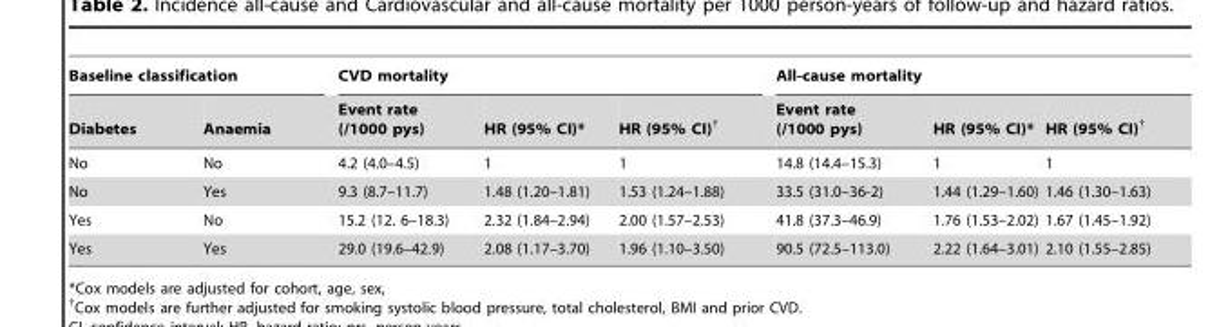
<table><thead><tr><td colspan="2">Baseline classification</td><td colspan="3">CVD mortality</td><td colspan="3">All-cause mortality</td></tr><tr><td>Diabetes</td><td>Anaemia</td><td>Event rate (/1000 pys)</td><td>HR (95% CI)*</td><td>HR (95% CI)†</td><td>Event rate (/1000 pys)</td><td>HR (95% CI)*</td><td>HR (95% CI)†</td></tr></thead><tbody><tr><td>No</td><td>No</td><td>4.2 (4.0–4.5)</td><td>1</td><td>1</td><td>14.8 (14.4–15.3)</td><td>1</td><td>1</td></tr><tr><td>No</td><td>Yes</td><td>9.3 (8.7–11.7)</td><td>1.48 (1.20–1.81)</td><td>1.53 (1.24–1.88)</td><td>33.5 (31.0–36-2)</td><td>1.44 (1.29–1.60)</td><td>1.46 (1.30–1.63)</td></tr><tr><td>Yes</td><td>No</td><td>15.2 (12. 6–18.3)</td><td>2.32 (1.84–2.94)</td><td>2.00 (1.57–2.53)</td><td>41.8 (37.3–46.9)</td><td>1.76 (1.53–2.02)</td><td>1.67 (1.45–1.92)</td></tr><tr><td>Yes</td><td>Yes</td><td>29.0 (19.6–42.9)</td><td>2.08 (1.17–3.70)</td><td>1.96 (1.10–3.50)</td><td>90.5 (72.5–113.0)</td><td>2.22 (1.64–3.01)</td><td>2.10 (1.55–2.85)</td></tr></tbody></table>